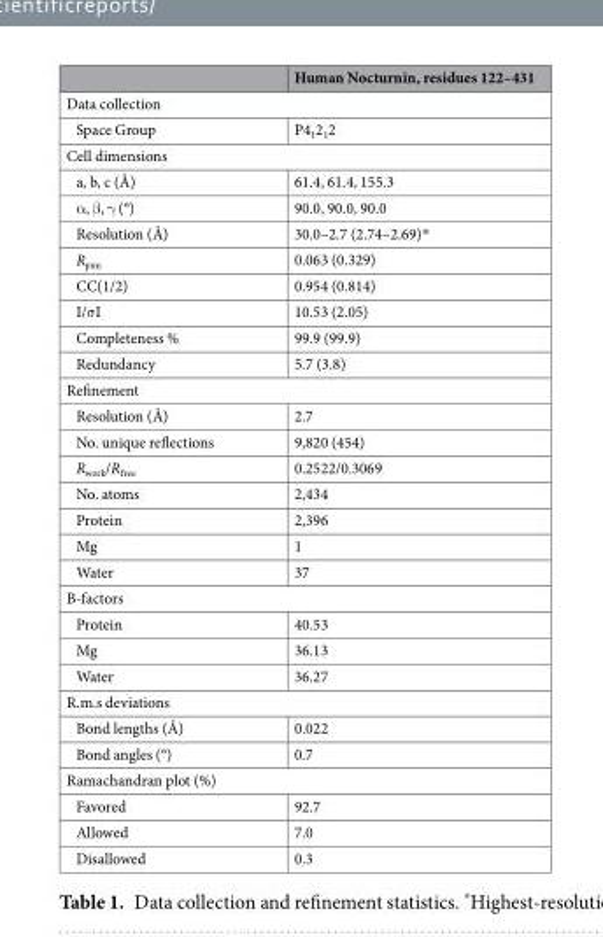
<table><thead><tr><td></td><td>Human Nocturnin, residues 122–431</td></tr></thead><tbody><tr><td colspan="2">Data collection</td></tr><tr><td>Space Group</td><td>P4<sub>1</sub>2<sub>1</sub>2</td></tr><tr><td colspan="2">Cell dimensions</td></tr><tr><td>a, b, c (Å)</td><td>61.4, 61.4, 155.3</td></tr><tr><td>α, β, γ (°)</td><td>90.0, 90.0, 90.0</td></tr><tr><td>Resolution (Å)</td><td>30.0–2.7 (2.74–2.69)*</td></tr><tr><td>R<sub>pim</sub></td><td>0.063 (0.329)</td></tr><tr><td>CC(1/2)</td><td>0.954 (0.814)</td></tr><tr><td>I/σI</td><td>10.53 (2.05)</td></tr><tr><td>Completeness %</td><td>99.9 (99.9)</td></tr><tr><td>Redundancy</td><td>5.7 (3.8)</td></tr><tr><td colspan="2">Refinement</td></tr><tr><td>Resolution (Å)</td><td>2.7</td></tr><tr><td>No. unique reflections</td><td>9,820 (454)</td></tr><tr><td>R<sub>work</sub>/R<sub>free</sub></td><td>0.2522/0.3069</td></tr><tr><td>No. atoms</td><td>2,434</td></tr><tr><td>Protein</td><td>2,396</td></tr><tr><td>Mg</td><td>1</td></tr><tr><td>Water</td><td>37</td></tr><tr><td colspan="2">B-factors</td></tr><tr><td>Protein</td><td>40.53</td></tr><tr><td>Mg</td><td>36.13</td></tr><tr><td>Water</td><td>36.27</td></tr><tr><td colspan="2">R.m.s deviations</td></tr><tr><td>Bond lengths (Å)</td><td>0.022</td></tr><tr><td>Bond angles (°)</td><td>0.7</td></tr><tr><td colspan="2">Ramachandran plot (%)</td></tr><tr><td>Favored</td><td>92.7</td></tr><tr><td>Allowed</td><td>7.0</td></tr><tr><td>Disallowed</td><td>0.3</td></tr></tbody></table>